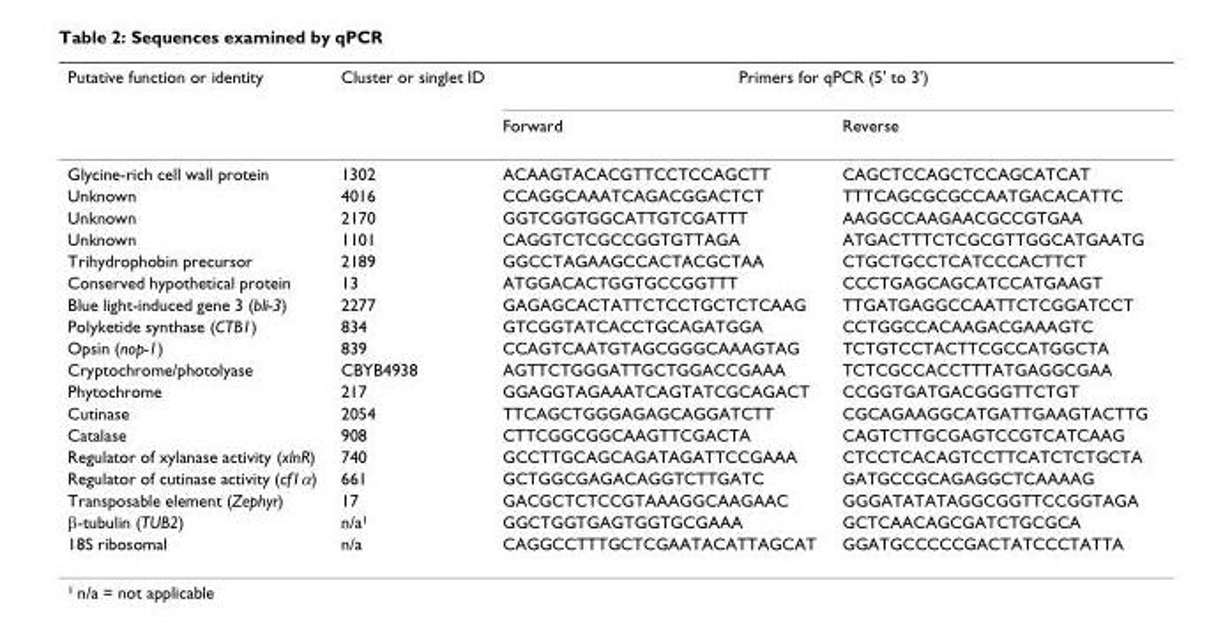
<table><thead><tr><td rowspan="2">Putative function or identity</td><td rowspan="2">Cluster or singlet ID</td><td colspan="2">Primers for qPCR (5&#x27; to 3&#x27;)</td></tr><tr><td>Forward</td><td>Reverse</td></tr></thead><tbody><tr><td>Glycine-rich cell wall protein</td><td>1302</td><td>ACAAGTACACGTTCCTCCAGCTT</td><td>CAGCTCCAGCTCCAGCATCAT</td></tr><tr><td>Unknown</td><td>4016</td><td>CCAGGCAAATCAGACGGACTCT</td><td>TTTCAGCGCGCCAATGACACATTC</td></tr><tr><td>Unknown</td><td>2170</td><td>GGTCGGTGGCATTGTCGATTT</td><td>AAGGCCAAGAACGCCGTGAA</td></tr><tr><td>Unknown</td><td>1101</td><td>CAGGTCTCGCCGGTGTTAGA</td><td>ATGACTTTCTCGCGTTGGCATGAATG</td></tr><tr><td>Trihydrophobin precursor</td><td>2189</td><td>GGCCTAGAAGCCACTACGCTAA</td><td>CTGCTGCCTCATCCCACTTCT</td></tr><tr><td>Conserved hypothetical protein</td><td>13</td><td>ATGGACACTGGTGCCGGTTT</td><td>CCCTGAGCAGCATCCATGAAGT</td></tr><tr><td>Blue light-induced gene 3 (bli-3)</td><td>2277</td><td>GAGAGCACTATTCTCCTGCTCTCAAG</td><td>TTGATGAGGCCAATTCTCGGATCCT</td></tr><tr><td>Polyketide synthase (CTB1)</td><td>834</td><td>GTCGGTATCACCTGCAGATGGA</td><td>CCTGGCCACAAGACGAAAGTC</td></tr><tr><td>Opsin (nop-1)</td><td>839</td><td>CCAGTCAATGTAGCGGGCAAAGTAG</td><td>TCTGTCCTACTTCGCCATGGCTA</td></tr><tr><td>Cryptochrome/photolyase</td><td>CBYB4938</td><td>AGTTCTGGGATTGCTGGACCGAAA</td><td>TCTCGCCACCTTTATGAGGCGAA</td></tr><tr><td>Phytochrome</td><td>217</td><td>GGAGGTAGAAATCAGTATCGCAGACT</td><td>CCGGTGATGACGGGTTCTGT</td></tr><tr><td>Cutinase</td><td>2054</td><td>TTCAGCTGGGAGAGCAGGATCTT</td><td>CGCAGAAGGCATGATTGAAGTACTTG</td></tr><tr><td>Catalase</td><td>908</td><td>CTTCGGCGGCAAGTTCGACTA</td><td>CAGTCTTGCGAGTCCGTCATCAAG</td></tr><tr><td>Regulator of xylanase activity (xlnR)</td><td>740</td><td>GCCTTGCAGCAGATAGATTCCGAAA</td><td>CTCCTCACAGTCCTTCATCTCTGCTA</td></tr><tr><td>Regulator of cutinase activity (cf1α)</td><td>661</td><td>GCTGGCGAGACAGGTCTTGATC</td><td>GATGCCGCAGAGGCTCAAAAG</td></tr><tr><td>Transposable element (Zephyr)</td><td>17</td><td>GACGCTCTCCGTAAAGGCAAGAAC</td><td>GGGATATATAGGCGGTTCCGGTAGA</td></tr><tr><td>β-tubulin (TUB2)</td><td>n/a<sup>1</sup></td><td>GGCTGGTGAGTGGTGCGAAA</td><td>GCTCAACAGCGATCTGCGCA</td></tr><tr><td>18S ribosomal</td><td>n/a</td><td>CAGGCCTTTGCTCGAATACATTAGCAT</td><td>GGATGCCCCCGACTATCCCTATTA</td></tr></tbody></table>